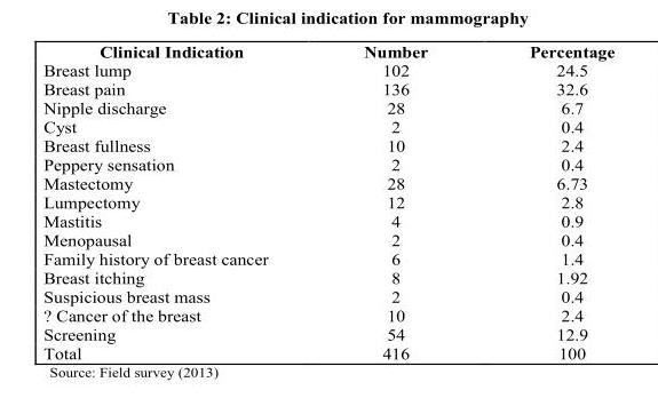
<table><thead><tr><td>Clinical Indication</td><td>Number</td><td>Percentage</td></tr></thead><tbody><tr><td>Breast lump</td><td>102</td><td>24.5</td></tr><tr><td>Breast pain</td><td>136</td><td>32.6</td></tr><tr><td>Nipple discharge</td><td>28</td><td>6.7</td></tr><tr><td>Cyst</td><td>2</td><td>0.4</td></tr><tr><td>Breast fullness</td><td>10</td><td>2.4</td></tr><tr><td>Peppery sensation</td><td>2</td><td>0.4</td></tr><tr><td>Mastectomy</td><td>28</td><td>6.73</td></tr><tr><td>Lumpectomy</td><td>12</td><td>2.8</td></tr><tr><td>Mastitis</td><td>4</td><td>0.9</td></tr><tr><td>Menopausal</td><td>2</td><td>0.4</td></tr><tr><td>Family history of breast cancer</td><td>6</td><td>1.4</td></tr><tr><td>Breast itching</td><td>8</td><td>1.92</td></tr><tr><td>Suspicious breast mass</td><td>2</td><td>0.4</td></tr><tr><td>? Cancer of the breast</td><td>10</td><td>2.4</td></tr><tr><td>Screening</td><td>54</td><td>12.9</td></tr><tr><td>Total</td><td>416</td><td>100</td></tr></tbody></table>